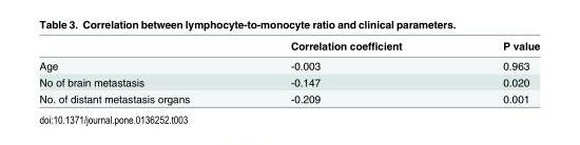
<table><thead><tr><td></td><td>Correlation coefficient</td><td>P value</td></tr></thead><tbody><tr><td>Age</td><td>-0.003</td><td>0.963</td></tr><tr><td>No of brain metastasis</td><td>-0.147</td><td>0.020</td></tr><tr><td>No. of distant metastasis organs</td><td>-0.209</td><td>0.001</td></tr></tbody></table>